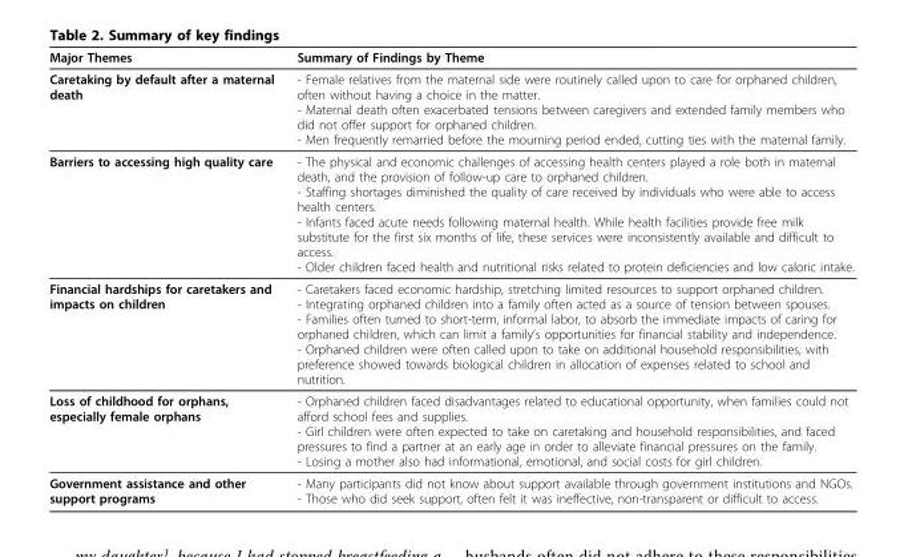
<table><thead><tr><td>Major Themes</td><td>Summary of Findings by Theme</td></tr></thead><tbody><tr><td>Caretaking by default after a maternal death</td><td>- Female relatives from the maternal side were routinely called upon to care for orphaned children, often without having a choice in the matter. - Maternal death often exacerbated tensions between caregivers and extended family members who did not offer support for orphaned children. - Men frequently remarried before the mourning period ended, cutting ties with the maternal family.</td></tr><tr><td>Barriers to accessing high quality care</td><td>- The physical and economic challenges of accessing health centers played a role both in maternal death, and the provision of follow-up care to orphaned children. - Staffing shortages diminished the quality of care received by individuals who were able to access health centers. - Infants faced acute needs following maternal health. While health facilities provide free milk substitute for the first six months of life, these services were inconsistently available and difficult to access. - Older children faced health and nutritional risks related to protein deficiencies and low caloric intake.</td></tr><tr><td>Financial hardships for caretakers and impacts on children</td><td>- Caretakers faced economic hardship, stretching limited resources to support orphaned children. - Integrating orphaned children into a family often acted as a source of tension between spouses. - Families often turned to short-term, informal labor, to absorb the immediate impacts of caring for orphaned children, which can limit a family’s opportunities for financial stability and independence. - Orphaned children were often called upon to take on additional household responsibilities, with preference showed towards biological children in allocation of expenses related to school and nutrition.</td></tr><tr><td>Loss of childhood for orphans, especially female orphans</td><td>- Orphaned children faced disadvantages related to educational opportunity, when families could not afford school fees and supplies. - Girl children were often expected to take on caretaking and household responsibilities, and faced pressures to find a partner at an early age in order to alleviate financial pressures on the family. - Losing a mother also had informational, emotional, and social costs for girl children.</td></tr><tr><td>Government assistance and other support programs</td><td>- Many participants did not know about support available through government institutions and NGOs. - Those who did seek support, often felt it was ineffective, non-transparent or difficult to access.</td></tr></tbody></table>